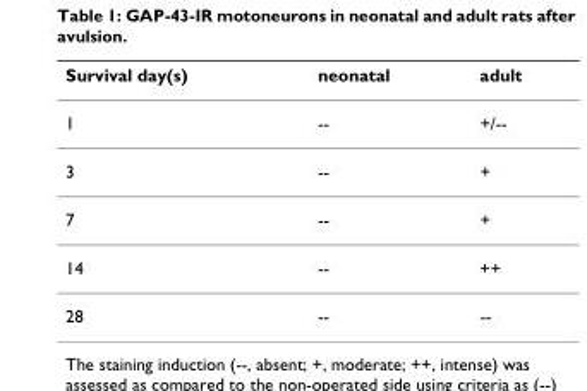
<table><thead><tr><td>Survival day(s)</td><td>neonatal</td><td>adult</td></tr></thead><tbody><tr><td>1</td><td>--</td><td>+/--</td></tr><tr><td>3</td><td>--</td><td>+</td></tr><tr><td>7</td><td>--</td><td>+</td></tr><tr><td>14</td><td>--</td><td>++</td></tr><tr><td>28</td><td>--</td><td>--</td></tr></tbody></table>